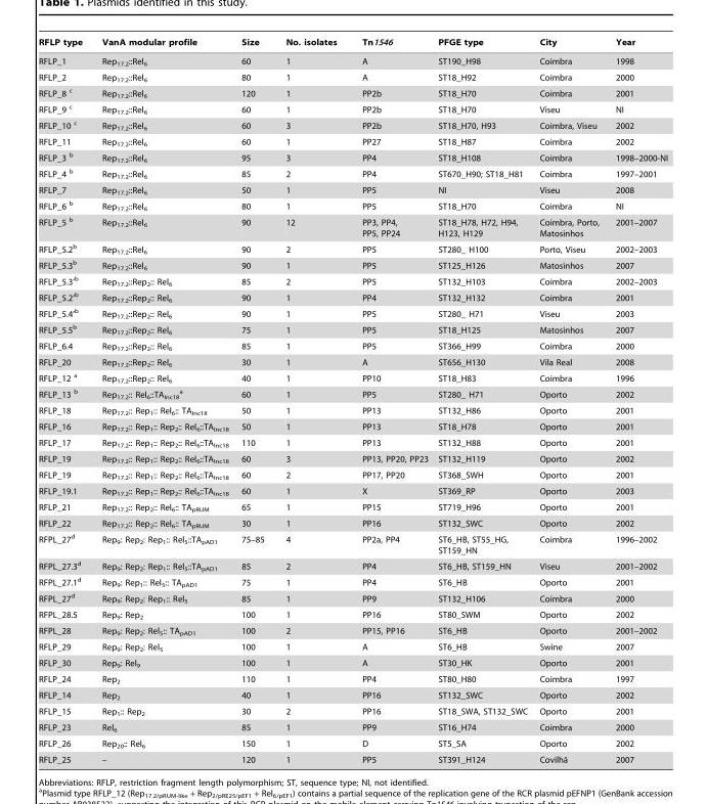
<table><thead><tr><td>RFLP type</td><td>VanA modular profile</td><td>Size</td><td>No. isolates</td><td>Tn1546</td><td>PFGE type</td><td>City</td><td>Year</td></tr></thead><tbody><tr><td>RFLP_1</td><td>Rep<sub>17.2</sub>::Rel<sub>6</sub></td><td>60</td><td>1</td><td>A</td><td>ST190_H98</td><td>Coimbra</td><td>1998</td></tr><tr><td>RFLP_2</td><td>Rep<sub>17.2</sub>::Rel<sub>6</sub></td><td>80</td><td>1</td><td>A</td><td>ST18_H92</td><td>Coimbra</td><td>2000</td></tr><tr><td>RFLP_8 c</td><td>Rep<sub>17.2</sub>::Rel<sub>6</sub></td><td>120</td><td>1</td><td>PP2b</td><td>ST18_H70</td><td>Coimbra</td><td>2001</td></tr><tr><td>RFLP_9 c</td><td>Rep<sub>17.2</sub>::Rel<sub>6</sub></td><td>60</td><td>1</td><td>PP2b</td><td>ST18_H70</td><td>Viseu</td><td>NI</td></tr><tr><td>RFLP_10 c</td><td>Rep<sub>17.2</sub>::Rel<sub>6</sub></td><td>60</td><td>3</td><td>PP2b</td><td>ST18_H70, H93</td><td>Coimbra, Viseu</td><td>2002</td></tr><tr><td>RFLP_11</td><td>Rep<sub>17.2</sub>::Rel<sub>6</sub></td><td>60</td><td>1</td><td>PP27</td><td>ST18_H87</td><td>Coimbra</td><td>2002</td></tr><tr><td>RFLP_3 b</td><td>Rep<sub>17.2</sub>::Rel<sub>6</sub></td><td>95</td><td>3</td><td>PP4</td><td>ST18_H108</td><td>Coimbra</td><td>1998–2000-NI</td></tr><tr><td>RFLP_4 b</td><td>Rep<sub>17.2</sub>::Rel<sub>6</sub></td><td>85</td><td>2</td><td>PP4</td><td>ST670_H90; ST18_H81</td><td>Coimbra</td><td>1997–2001</td></tr><tr><td>RFLP_7</td><td>Rep<sub>17.2</sub>::Rel<sub>6</sub></td><td>50</td><td>1</td><td>PP5</td><td>NI</td><td>Viseu</td><td>2008</td></tr><tr><td>RFLP_6 b</td><td>Rep<sub>17.2</sub>::Rel<sub>6</sub></td><td>80</td><td>1</td><td>PP5</td><td>ST18_H70</td><td>Coimbra</td><td>NI</td></tr><tr><td>RFLP_5 b</td><td>Rep<sub>17.2</sub>::Rel<sub>6</sub></td><td>90</td><td>12</td><td>PP3, PP4, PP5, PP24</td><td>ST18_H78, H72, H94, H123, H129</td><td>Coimbra, Porto, Matosinhos</td><td>2001–2007</td></tr><tr><td>RFLP_5.2<sup>b</sup></td><td>Rep<sub>17.2</sub>::Rel<sub>6</sub></td><td>90</td><td>2</td><td>PP5</td><td>ST280_ H100</td><td>Porto, Viseu</td><td>2002–2003</td></tr><tr><td>RFLP_5.3<sup>b</sup></td><td>Rep<sub>17.2</sub>::Rel<sub>6</sub></td><td>90</td><td>1</td><td>PP5</td><td>ST125_H126</td><td>Matosinhos</td><td>2007</td></tr><tr><td>RFLP_5.3’<sup>b</sup></td><td>Rep<sub>17.2</sub>::Rep<sub>2</sub>:: Rel<sub>6</sub></td><td>85</td><td>2</td><td>PP5</td><td>ST132_H103</td><td>Coimbra</td><td>2002–2003</td></tr><tr><td>RFLP_5.2’<sup>b</sup></td><td>Rep<sub>17.2</sub>::Rep<sub>2</sub>:: Rel<sub>6</sub></td><td>90</td><td>1</td><td>PP4</td><td>ST132_H132</td><td>Coimbra</td><td>2001</td></tr><tr><td>RFLP_5.4’<sup>b</sup></td><td>Rep<sub>17.2</sub>::Rep<sub>2</sub>:: Rel<sub>6</sub></td><td>90</td><td>1</td><td>PP5</td><td>ST280_ H71</td><td>Viseu</td><td>2003</td></tr><tr><td>RFLP_5.5<sup>b</sup></td><td>Rep<sub>17.2</sub>::Rep<sub>2</sub>:: Rel<sub>6</sub></td><td>75</td><td>1</td><td>PP5</td><td>ST18_H125</td><td>Matosinhos</td><td>2007</td></tr><tr><td>RFLP_6.4</td><td>Rep<sub>17.2</sub>::Rep<sub>2</sub>:: Rel<sub>6</sub></td><td>85</td><td>1</td><td>PP5</td><td>ST366_H99</td><td>Coimbra</td><td>2000</td></tr><tr><td>RFLP_20</td><td>Rep<sub>17.2</sub>::Rep<sub>2</sub>:: Rel<sub>6</sub></td><td>30</td><td>1</td><td>A</td><td>ST656_H130</td><td>Vila Real</td><td>2008</td></tr><tr><td>RFLP_12 a</td><td>Rep<sub>17.2</sub>::Rep<sub>2</sub>:: Rel<sub>6</sub></td><td>40</td><td>1</td><td>PP10</td><td>ST18_H83</td><td>Coimbra</td><td>1996</td></tr><tr><td>RFLP_13 b</td><td>Rep<sub>17.2</sub>:: Rel<sub>6</sub>::TA<sub>Inc18</sub> a</td><td>60</td><td>1</td><td>PP5</td><td>ST280_ H71</td><td>Oporto</td><td>2002</td></tr><tr><td>RFLP_18</td><td>Rep<sub>17.2</sub>:: Rep<sub>1</sub>:: Rel<sub>6</sub>:: TA<sub>Inc18</sub></td><td>50</td><td>1</td><td>PP13</td><td>ST132_H86</td><td>Oporto</td><td>2001</td></tr><tr><td>RFLP_16</td><td>Rep<sub>17.2</sub>:: Rep<sub>1</sub>:: Rep<sub>2</sub>:: Rel<sub>6</sub>::TA<sub>Inc18</sub></td><td>50</td><td>1</td><td>PP13</td><td>ST18_H78</td><td>Oporto</td><td>2001</td></tr><tr><td>RFLP_17</td><td>Rep<sub>17.2</sub>:: Rep<sub>1</sub>:: Rep<sub>2</sub>:: Rel<sub>6</sub>::TA<sub>Inc18</sub></td><td>110</td><td>1</td><td>PP13</td><td>ST132_H88</td><td>Oporto</td><td>2001</td></tr><tr><td>RFLP_19</td><td>Rep<sub>17.2</sub>:: Rep<sub>1</sub>:: Rep<sub>2</sub>:: Rel<sub>6</sub>::TA<sub>Inc18</sub></td><td>60</td><td>3</td><td>PP13, PP20, PP23</td><td>ST132_H119</td><td>Oporto</td><td>2002</td></tr><tr><td>RFLP_19</td><td>Rep<sub>17.2</sub>:: Rep<sub>1</sub>:: Rep<sub>2</sub>:: Rel<sub>6</sub>::TA<sub>Inc18</sub></td><td>60</td><td>2</td><td>PP17, PP20</td><td>ST368_SWH</td><td>Oporto</td><td>2001</td></tr><tr><td>RFLP_19.1</td><td>Rep<sub>17.2</sub>:: Rep<sub>1</sub>:: Rep<sub>2</sub>:: Rel<sub>6</sub>::TA<sub>Inc18</sub></td><td>60</td><td>1</td><td>X</td><td>ST369_RP</td><td>Oporto</td><td>2003</td></tr><tr><td>RFLP_21</td><td>Rep<sub>17.2</sub>:: Rep<sub>2</sub>:: Rel<sub>6</sub>:: TA<sub>pRUM</sub></td><td>65</td><td>1</td><td>PP15</td><td>ST719_H96</td><td>Oporto</td><td>2001</td></tr><tr><td>RFLP_22</td><td>Rep<sub>17.2</sub>:: Rep<sub>2</sub>:: Rel<sub>6</sub>:: TA<sub>pRUM</sub></td><td>30</td><td>1</td><td>PP16</td><td>ST132_SWC</td><td>Oporto</td><td>2002</td></tr><tr><td>RFPL_27<sup>d</sup></td><td>Rep<sub>9</sub>: Rep<sub>2</sub>: Rep<sub>1</sub>:: Rel<sub>5</sub>::TA<sub>pAD1</sub></td><td>75–85</td><td>4</td><td>PP2a, PP4</td><td>ST6_HB, ST55_HG, ST159_HN</td><td>Coimbra</td><td>1996–2002</td></tr><tr><td>RFPL_27.3<sup>d</sup></td><td>Rep<sub>9</sub>: Rep<sub>2</sub>: Rep<sub>1</sub>:: Rel<sub>5</sub>::TA<sub>pAD1</sub></td><td>85</td><td>2</td><td>PP4</td><td>ST6_HB, ST159_HN</td><td>Viseu</td><td>2001–2002</td></tr><tr><td>RFPL_27.1<sup>d</sup></td><td>Rep<sub>9</sub>: Rep<sub>1</sub>:: Rel<sub>5</sub>:: TA<sub>pAD1</sub></td><td>75</td><td>1</td><td>PP4</td><td>ST6_HB</td><td>Oporto</td><td>2001</td></tr><tr><td>RFPL_27<sup>d</sup></td><td>Rep<sub>9</sub>: Rep<sub>2</sub>: Rep<sub>1</sub>:: Rel<sub>5</sub></td><td>85</td><td>1</td><td>PP9</td><td>ST132_H106</td><td>Coimbra</td><td>2000</td></tr><tr><td>RFPL_28.5</td><td>Rep<sub>9</sub>: Rep<sub>2</sub></td><td>100</td><td>1</td><td>PP16</td><td>ST80_SWM</td><td>Oporto</td><td>2002</td></tr><tr><td>RFPL_28</td><td>Rep<sub>9</sub>: Rep<sub>2</sub>: Rel<sub>5</sub>:: TA<sub>pAD1</sub></td><td>100</td><td>2</td><td>PP15, PP16</td><td>ST6_HB</td><td>Oporto</td><td>2001–2002</td></tr><tr><td>RFLP_29</td><td>Rep<sub>9</sub>: Rep<sub>2</sub>: Rel<sub>5</sub></td><td>100</td><td>1</td><td>A</td><td>ST6_HB</td><td>Swine</td><td>2007</td></tr><tr><td>RFLP_30</td><td>Rep<sub>9</sub>: Rel<sub>9</sub></td><td>100</td><td>1</td><td>A</td><td>ST30_HK</td><td>Oporto</td><td>2001</td></tr><tr><td>RFLP_24</td><td>Rep<sub>2</sub></td><td>110</td><td>1</td><td>PP4</td><td>ST80_H80</td><td>Coimbra</td><td>1997</td></tr><tr><td>RFLP_14</td><td>Rep<sub>2</sub></td><td>40</td><td>1</td><td>PP16</td><td>ST132_SWC</td><td>Oporto</td><td>2002</td></tr><tr><td>RFLP_15</td><td>Rep<sub>1</sub>:: Rep<sub>2</sub></td><td>30</td><td>2</td><td>PP16</td><td>ST18_SWA, ST132_SWC</td><td>Oporto</td><td>2001</td></tr><tr><td>RFLP_23</td><td>Rel<sub>6</sub></td><td>85</td><td>1</td><td>PP9</td><td>ST16_H74</td><td>Coimbra</td><td>2000</td></tr><tr><td>RFLP_26</td><td>Rep<sub>20</sub>:: Rel<sub>6</sub></td><td>150</td><td>1</td><td>D</td><td>ST5_SA</td><td>Oporto</td><td>2002</td></tr><tr><td>RFLP_25</td><td>–</td><td>120</td><td>1</td><td>PP5</td><td>ST391_H124</td><td>Covilha˜</td><td>2007</td></tr></tbody></table>